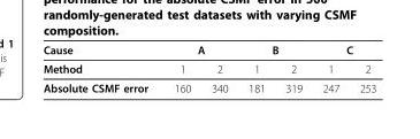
<table><thead><tr><td rowspan="2">Cause Method</td><td colspan="2">A</td><td colspan="2">B</td><td colspan="2">C</td></tr><tr><td>1</td><td>2</td><td>1</td><td>2</td><td>1</td><td>2</td></tr></thead><tbody><tr><td>Absolute CSMF error</td><td>160</td><td>340</td><td>181</td><td>319</td><td>247</td><td>253</td></tr></tbody></table>